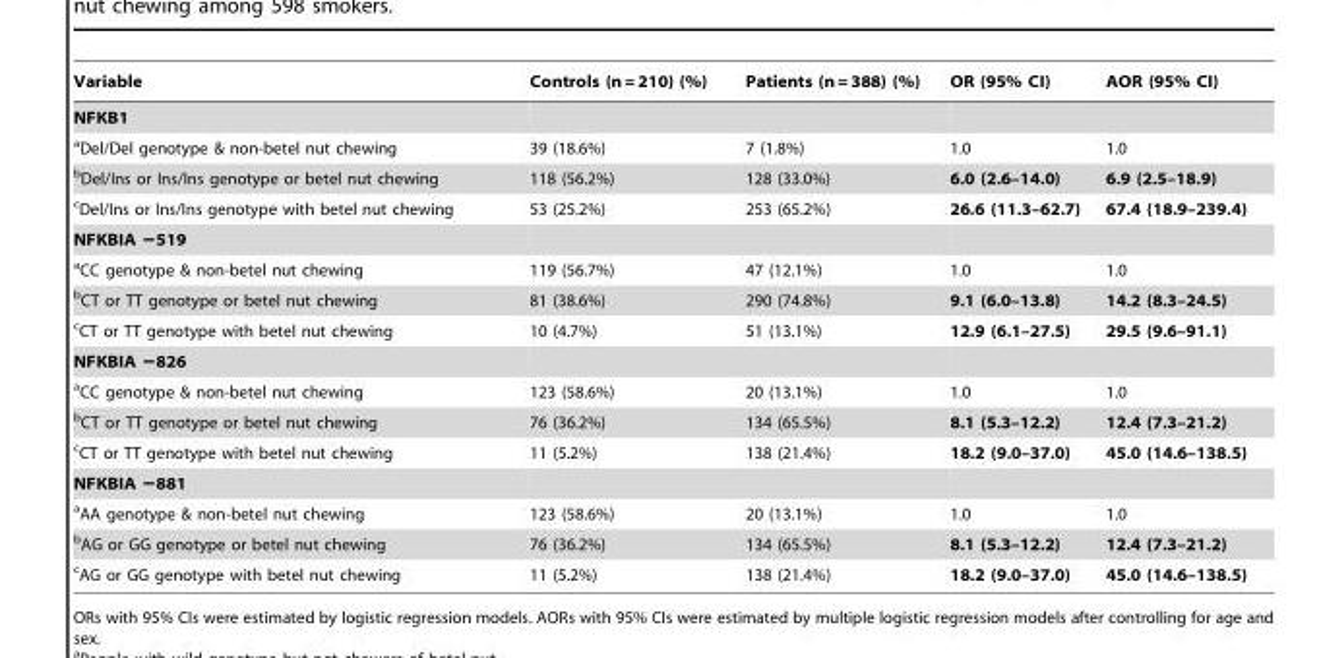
<table><thead><tr><td>Variable</td><td>Controls (n = 210) (%)</td><td>Patients (n = 388) (%)</td><td>OR (95% CI)</td><td>AOR (95% CI)</td></tr></thead><tbody><tr><td colspan="5">NFKB1</td></tr><tr><td>aDel/Del genotype &amp; non-betel nut chewing</td><td>39 (18.6%)</td><td>7 (1.8%)</td><td>1.0</td><td>1.0</td></tr><tr><td>bDel/Ins or Ins/Ins genotype or betel nut chewing</td><td>118 (56.2%)</td><td>128 (33.0%)</td><td>6.0 (2.6–14.0)</td><td>6.9 (2.5–18.9)</td></tr><tr><td>cDel/Ins or Ins/Ins genotype with betel nut chewing</td><td>53 (25.2%)</td><td>253 (65.2%)</td><td>26.6 (11.3–62.7)</td><td>67.4 (18.9–239.4)</td></tr><tr><td colspan="5">NFKBIA −519</td></tr><tr><td>aCC genotype &amp; non-betel nut chewing</td><td>119 (56.7%)</td><td>47 (12.1%)</td><td>1.0</td><td>1.0</td></tr><tr><td>bCT or TT genotype or betel nut chewing</td><td>81 (38.6%)</td><td>290 (74.8%)</td><td>9.1 (6.0–13.8)</td><td>14.2 (8.3–24.5)</td></tr><tr><td>cCT or TT genotype with betel nut chewing</td><td>10 (4.7%)</td><td>51 (13.1%)</td><td>12.9 (6.1–27.5)</td><td>29.5 (9.6–91.1)</td></tr><tr><td colspan="5">NFKBIA −826</td></tr><tr><td>aCC genotype &amp; non-betel nut chewing</td><td>123 (58.6%)</td><td>20 (13.1%)</td><td>1.0</td><td>1.0</td></tr><tr><td>bCT or TT genotype or betel nut chewing</td><td>76 (36.2%)</td><td>134 (65.5%)</td><td>8.1 (5.3–12.2)</td><td>12.4 (7.3–21.2)</td></tr><tr><td>cCT or TT genotype with betel nut chewing</td><td>11 (5.2%)</td><td>138 (21.4%)</td><td>18.2 (9.0–37.0)</td><td>45.0 (14.6–138.5)</td></tr><tr><td colspan="5">NFKBIA −881</td></tr><tr><td>aAA genotype &amp; non-betel nut chewing</td><td>123 (58.6%)</td><td>20 (13.1%)</td><td>1.0</td><td>1.0</td></tr><tr><td>bAG or GG genotype or betel nut chewing</td><td>76 (36.2%)</td><td>134 (65.5%)</td><td>8.1 (5.3–12.2)</td><td>12.4 (7.3–21.2)</td></tr><tr><td>cAG or GG genotype with betel nut chewing</td><td>11 (5.2%)</td><td>138 (21.4%)</td><td>18.2 (9.0–37.0)</td><td>45.0 (14.6–138.5)</td></tr></tbody></table>